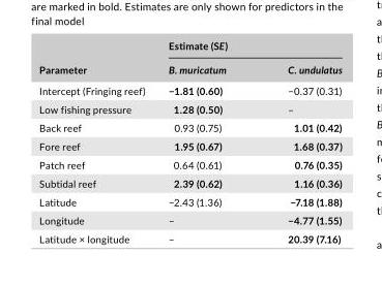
<table><thead><tr><td rowspan="2">Parameter</td><td colspan="2">Estimate (SE)</td></tr><tr><td>B. muricatum</td><td>C. undulatus</td></tr></thead><tbody><tr><td>Intercept (Fringing reef)</td><td>−1.81 (0.60)</td><td>−0.37 (0.31)</td></tr><tr><td>Low fishing pressure</td><td>1.28 (0.50)</td><td>–</td></tr><tr><td>Back reef</td><td>0.93 (0.75)</td><td>1.01 (0.42)</td></tr><tr><td>Fore reef</td><td>1.95 (0.67)</td><td>1.68 (0.37)</td></tr><tr><td>Patch reef</td><td>0.64 (0.61)</td><td>0.76 (0.35)</td></tr><tr><td>Subtidal reef</td><td>2.39 (0.62)</td><td>1.16 (0.36)</td></tr><tr><td>Latitude</td><td>−2.43 (1.36)</td><td>−7.18 (1.88)</td></tr><tr><td>Longitude</td><td>–</td><td>−4.77 (1.55)</td></tr><tr><td>Latitude × longitude</td><td>–</td><td>20.39 (7.16)</td></tr></tbody></table>